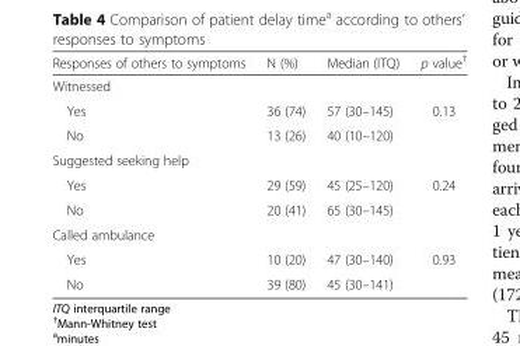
<table><thead><tr><td>Responses of others to symptoms</td><td>N (%)</td><td>Median (ITQ)</td><td>p value<sup>†</sup></td></tr></thead><tbody><tr><td colspan="4">Witnessed</td></tr><tr><td>Yes</td><td>36 (74)</td><td>57 (30–145)</td><td>0.13</td></tr><tr><td>No</td><td>13 (26)</td><td>40 (10–120)</td><td></td></tr><tr><td colspan="4">Suggested seeking help</td></tr><tr><td>Yes</td><td>29 (59)</td><td>45 (25–120)</td><td>0.24</td></tr><tr><td>No</td><td>20 (41)</td><td>65 (30–145)</td><td></td></tr><tr><td colspan="4">Called ambulance</td></tr><tr><td>Yes</td><td>10 (20)</td><td>47 (30–140)</td><td>0.93</td></tr><tr><td>No</td><td>39 (80)</td><td>45 (30–141)</td><td></td></tr></tbody></table>